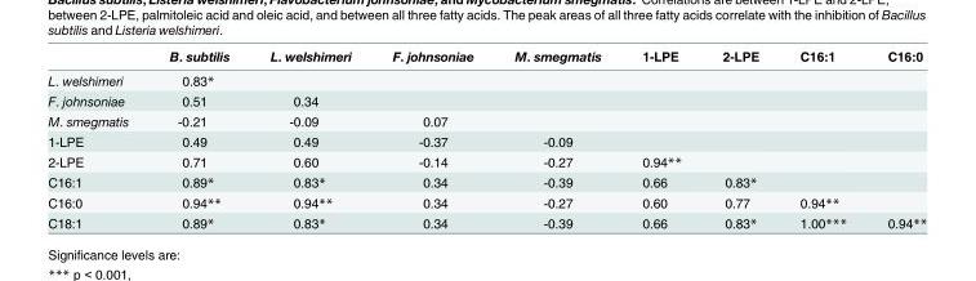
<table><thead><tr><td></td><td>B. subtilis</td><td>L. welshimeri</td><td>F. johnsoniae</td><td>M. smegmatis</td><td>1-LPE</td><td>2-LPE</td><td>C16:1</td><td>C16:0</td></tr></thead><tbody><tr><td>L. welshimeri</td><td>0.83*</td><td></td><td></td><td></td><td></td><td></td><td></td><td></td></tr><tr><td>F. johnsoniae</td><td>0.51</td><td>0.34</td><td></td><td></td><td></td><td></td><td></td><td></td></tr><tr><td>M. smegmatis</td><td>-0.21</td><td>-0.09</td><td>0.07</td><td></td><td></td><td></td><td></td><td></td></tr><tr><td>1-LPE</td><td>0.49</td><td>0.49</td><td>-0.37</td><td>-0.09</td><td></td><td></td><td></td><td></td></tr><tr><td>2-LPE</td><td>0.71</td><td>0.60</td><td>-0.14</td><td>-0.27</td><td>0.94**</td><td></td><td></td><td></td></tr><tr><td>C16:1</td><td>0.89*</td><td>0.83*</td><td>0.34</td><td>-0.39</td><td>0.66</td><td>0.83*</td><td></td><td></td></tr><tr><td>C16:0</td><td>0.94**</td><td>0.94**</td><td>0.34</td><td>-0.27</td><td>0.60</td><td>0.77</td><td>0.94**</td><td></td></tr><tr><td>C18:1</td><td>0.89*</td><td>0.83*</td><td>0.34</td><td>-0.39</td><td>0.66</td><td>0.83*</td><td>1.00***</td><td>0.94**</td></tr></tbody></table>